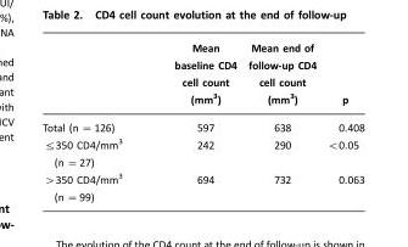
<table><thead><tr><td></td><td>Mean baseline CD4 cell count (mm3)</td><td>Mean end of follow-up CD4 cell count (mm3)</td><td>p</td></tr></thead><tbody><tr><td>Total (n =126)</td><td>597</td><td>638</td><td>0.408</td></tr><tr><td>≤350 CD4/mm3 (n =27)</td><td>242</td><td>290</td><td>&lt;0.05</td></tr><tr><td>&gt;350 CD4/mm3 (n =99)</td><td>694</td><td>732</td><td>0.063</td></tr></tbody></table>